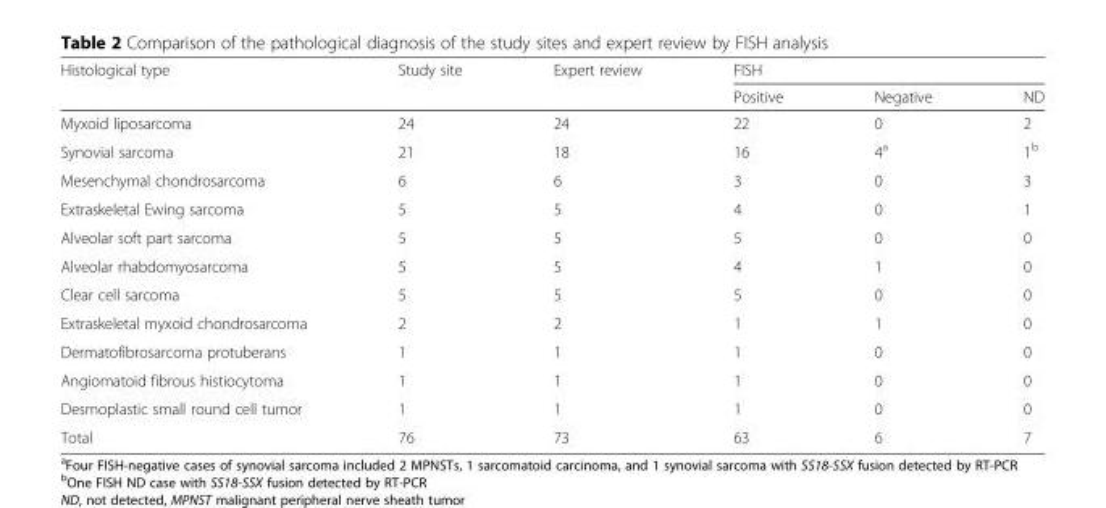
<table><thead><tr><td rowspan="2">Histological type</td><td rowspan="2">Study site</td><td rowspan="2">Expert review</td><td colspan="3">FISH</td></tr><tr><td>Positive</td><td>Negative</td><td>ND</td></tr></thead><tbody><tr><td>Myxoid liposarcoma</td><td>24</td><td>24</td><td>22</td><td>0</td><td>2</td></tr><tr><td>Synovial sarcoma</td><td>21</td><td>18</td><td>16</td><td>4<sup>a</sup></td><td>1<sup>b</sup></td></tr><tr><td>Mesenchymal chondrosarcoma</td><td>6</td><td>6</td><td>3</td><td>0</td><td>3</td></tr><tr><td>Extraskeletal Ewing sarcoma</td><td>5</td><td>5</td><td>4</td><td>0</td><td>1</td></tr><tr><td>Alveolar soft part sarcoma</td><td>5</td><td>5</td><td>5</td><td>0</td><td>0</td></tr><tr><td>Alveolar rhabdomyosarcoma</td><td>5</td><td>5</td><td>4</td><td>1</td><td>0</td></tr><tr><td>Clear cell sarcoma</td><td>5</td><td>5</td><td>5</td><td>0</td><td>0</td></tr><tr><td>Extraskeletal myxoid chondrosarcoma</td><td>2</td><td>2</td><td>1</td><td>1</td><td>0</td></tr><tr><td>Dermatofibrosarcoma protuberans</td><td>1</td><td>1</td><td>1</td><td>0</td><td>0</td></tr><tr><td>Angiomatoid fibrous histiocytoma</td><td>1</td><td>1</td><td>1</td><td>0</td><td>0</td></tr><tr><td>Desmoplastic small round cell tumor</td><td>1</td><td>1</td><td>1</td><td>0</td><td>0</td></tr><tr><td>Total</td><td>76</td><td>73</td><td>63</td><td>6</td><td>7</td></tr></tbody></table>